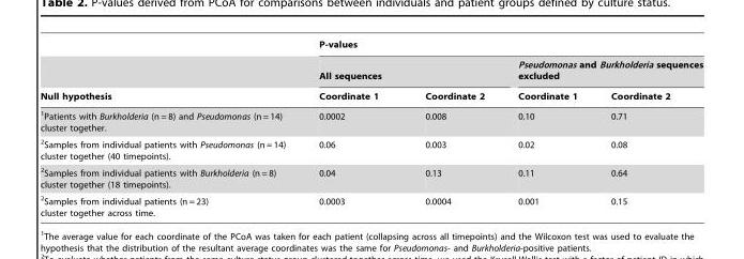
<table><thead><tr><td rowspan="3">Null hypothesis</td><td colspan="4">P-values</td></tr><tr><td colspan="2">All sequences</td><td colspan="2">Pseudomonas and Burkholderia sequences excluded</td></tr><tr><td>Coordinate 1</td><td>Coordinate 2</td><td>Coordinate 1</td><td>Coordinate 2</td></tr></thead><tbody><tr><td>1Patients with Burkholderia (n = 8) and Pseudomonas (n = 14) cluster together.</td><td>0.0002</td><td>0.008</td><td>0.10</td><td>0.71</td></tr><tr><td>2Samples from individual patients with Pseudomonas (n = 14) cluster together (40 timepoints).</td><td>0.06</td><td>0.003</td><td>0.02</td><td>0.08</td></tr><tr><td>2Samples from individual patients with Burkholderia (n = 8) cluster together (18 timepoints).</td><td>0.04</td><td>0.13</td><td>0.11</td><td>0.64</td></tr><tr><td>2Samples from individual patients (n = 23) cluster together across time.</td><td>0.0003</td><td>0.0004</td><td>0.001</td><td>0.15</td></tr></tbody></table>